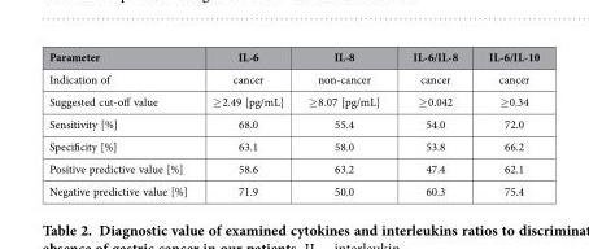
<table><thead><tr><td>Parameter</td><td>IL-6</td><td>IL-8</td><td>IL-6/IL-8</td><td>IL-6/IL-10</td></tr></thead><tbody><tr><td>Indication of</td><td>cancer</td><td>non-cancer</td><td>cancer</td><td>cancer</td></tr><tr><td>Suggested cut-off value</td><td>≥ 2.49 [pg/mL]</td><td>≥ 8.07 [pg/mL]</td><td>≥ 0.042</td><td>≥ 0.34</td></tr><tr><td>Sensitivity [%]</td><td>68.0</td><td>55.4</td><td>54.0</td><td>72.0</td></tr><tr><td>Specificity [%]</td><td>63.1</td><td>58.0</td><td>53.8</td><td>66.2</td></tr><tr><td>Positive predictive value [%]</td><td>58.6</td><td>63.2</td><td>47.4</td><td>62.1</td></tr><tr><td>Negative predictive value [%]</td><td>71.9</td><td>50.0</td><td>60.3</td><td>75.4</td></tr></tbody></table>